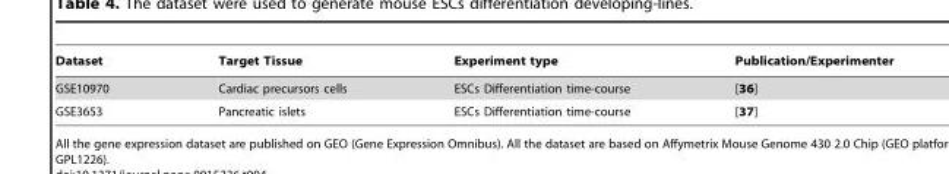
<table><thead><tr><td>Dataset</td><td>Target Tissue</td><td>Experiment type</td><td>Publication/Experimenter</td></tr></thead><tbody><tr><td>GSE10970</td><td>Cardiac precursors cells</td><td>ESCs Differentiation time-course</td><td>[36]</td></tr><tr><td>GSE3653</td><td>Pancreatic islets</td><td>ESCs Differentiation time-course</td><td>[37]</td></tr></tbody></table>